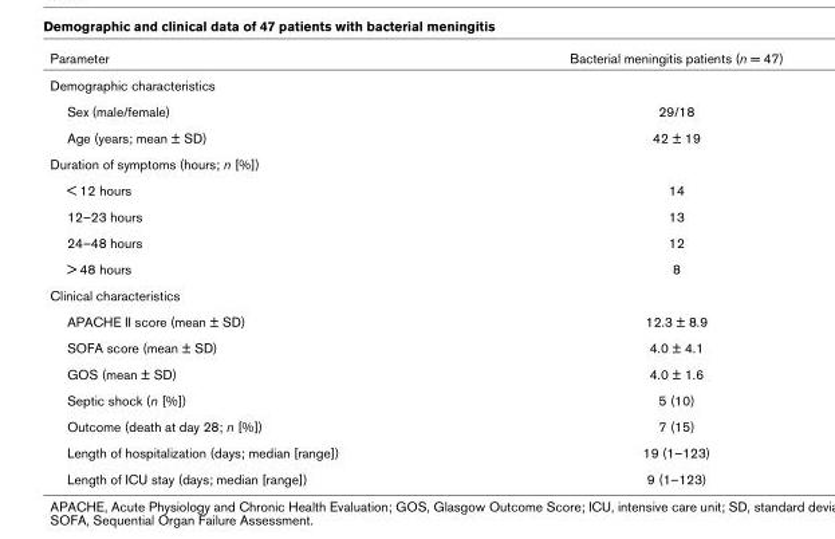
<table><thead><tr><td>Parameter</td><td>Bacterial meningitis patients (n = 47)</td></tr></thead><tbody><tr><td colspan="2">Demographic characteristics</td></tr><tr><td>Sex (male/female)</td><td>29/18</td></tr><tr><td>Age (years; mean ± SD)</td><td>42 ± 19</td></tr><tr><td colspan="2">Duration of symptoms (hours; n [%])</td></tr><tr><td>&lt; 12 hours</td><td>14</td></tr><tr><td>12–23 hours</td><td>13</td></tr><tr><td>24–48 hours</td><td>12</td></tr><tr><td>&gt; 48 hours</td><td>8</td></tr><tr><td colspan="2">Clinical characteristics</td></tr><tr><td>APACHE II score (mean ± SD)</td><td>12.3 ± 8.9</td></tr><tr><td>SOFA score (mean ± SD)</td><td>4.0 ± 4.1</td></tr><tr><td>GOS (mean ± SD)</td><td>4.0 ± 1.6</td></tr><tr><td>Septic shock (n [%])</td><td>5 (10)</td></tr><tr><td>Outcome (death at day 28; n [%])</td><td>7 (15)</td></tr><tr><td>Length of hospitalization (days; median [range])</td><td>19 (1–123)</td></tr><tr><td>Length of ICU stay (days; median [range])</td><td>9 (1–123)</td></tr></tbody></table>